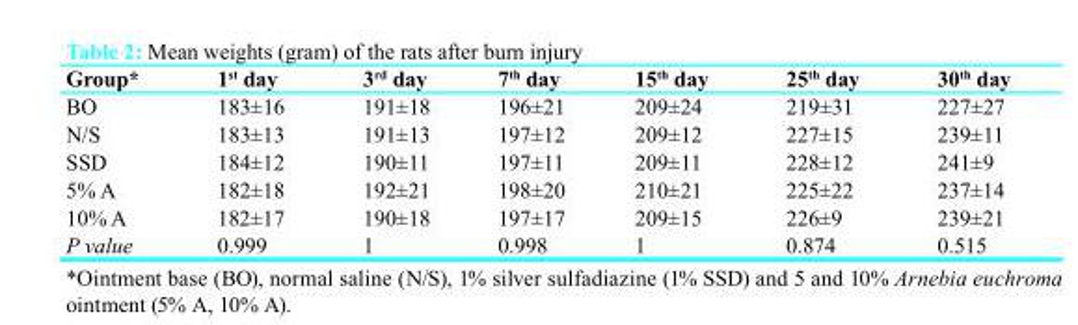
<table><thead><tr><td>Group*</td><td>1<sup>st</sup> day</td><td>3<sup>rd</sup> day</td><td>7<sup>th</sup> day</td><td>15<sup>th</sup> day</td><td>25<sup>th</sup> day</td><td>30<sup>th</sup> day</td></tr></thead><tbody><tr><td>BO</td><td>183±16</td><td>191±18</td><td>196±21</td><td>209±24</td><td>219±31</td><td>227±27</td></tr><tr><td>N/S</td><td>183±13</td><td>191±13</td><td>197±12</td><td>209±12</td><td>227±15</td><td>239±11</td></tr><tr><td>SSD</td><td>184±12</td><td>190±11</td><td>197±11</td><td>209±11</td><td>228±12</td><td>241±9</td></tr><tr><td>5% A</td><td>182±18</td><td>192±21</td><td>198±20</td><td>210±21</td><td>225±22</td><td>237±14</td></tr><tr><td>10% A</td><td>182±17</td><td>190±18</td><td>197±17</td><td>209±15</td><td>226±9</td><td>239±21</td></tr><tr><td>P value</td><td>0.999</td><td>1</td><td>0.998</td><td>1</td><td>0.874</td><td>0.515</td></tr></tbody></table>